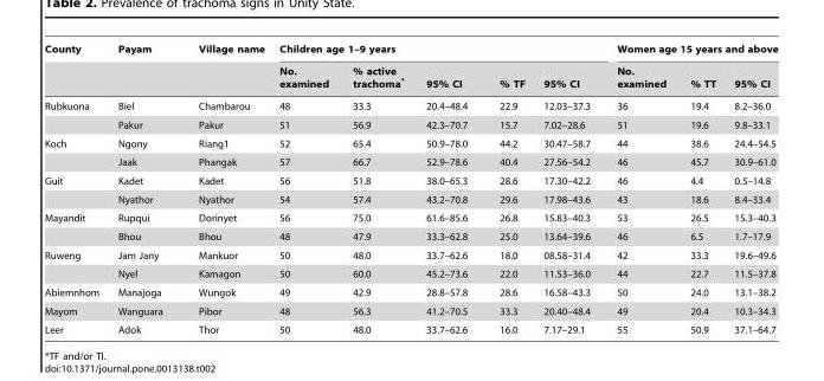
<table><thead><tr><td rowspan="2">County</td><td rowspan="2">Payam</td><td rowspan="2">Village name</td><td colspan="5">Children age 1–9 years</td><td colspan="3">Women age 15 years and above</td></tr><tr><td>No. examined</td><td>% active trachoma*</td><td>95% CI</td><td>% TF</td><td>95% CI</td><td>No. examined</td><td>% TT</td><td>95% CI</td></tr></thead><tbody><tr><td rowspan="2">Rubkuona</td><td>Biel</td><td>Chambarou</td><td>48</td><td>33.3</td><td>20.4–48.4</td><td>22.9</td><td>12.03–37.3</td><td>36</td><td>19.4</td><td>8.2–36.0</td></tr><tr><td>Pakur</td><td>Pakur</td><td>51</td><td>56.9</td><td>42.3–70.7</td><td>15.7</td><td>7.02–28.6</td><td>51</td><td>19.6</td><td>9.8–33.1</td></tr><tr><td rowspan="2">Koch</td><td>Ngony</td><td>Riang1</td><td>52</td><td>65.4</td><td>50.9–78.0</td><td>44.2</td><td>30.47–58.7</td><td>44</td><td>38.6</td><td>24.4–54.5</td></tr><tr><td>Jaak</td><td>Phangak</td><td>57</td><td>66.7</td><td>52.9–78.6</td><td>40.4</td><td>27.56–54.2</td><td>46</td><td>45.7</td><td>30.9–61.0</td></tr><tr><td rowspan="2">Guit</td><td>Kadet</td><td>Kadet</td><td>56</td><td>51.8</td><td>38.0–65.3</td><td>28.6</td><td>17.30–42.2</td><td>46</td><td>4.4</td><td>0.5–14.8</td></tr><tr><td>Nyathor</td><td>Nyathor</td><td>54</td><td>57.4</td><td>43.2–70.8</td><td>29.6</td><td>17.98–43.6</td><td>43</td><td>18.6</td><td>8.4–33.4</td></tr><tr><td rowspan="2">Mayandit</td><td>Rupqui</td><td>Dorinyet</td><td>56</td><td>75.0</td><td>61.6–85.6</td><td>26.8</td><td>15.83–40.3</td><td>53</td><td>26.5</td><td>15.3–40.3</td></tr><tr><td>Bhou</td><td>Bhou</td><td>48</td><td>47.9</td><td>33.3–62.8</td><td>25.0</td><td>13.64–39.6</td><td>46</td><td>6.5</td><td>1.7–17.9</td></tr><tr><td rowspan="2">Ruweng</td><td>Jam Jany</td><td>Mankuor</td><td>50</td><td>48.0</td><td>33.7–62.6</td><td>18.0</td><td>08.58–31.4</td><td>42</td><td>33.3</td><td>19.6–49.6</td></tr><tr><td>Nyel</td><td>Kamagon</td><td>50</td><td>60.0</td><td>45.2–73.6</td><td>22.0</td><td>11.53–36.0</td><td>44</td><td>22.7</td><td>11.5–37.8</td></tr><tr><td>Abiemnhom</td><td>Manajoga</td><td>Wungok</td><td>49</td><td>42.9</td><td>28.8–57.8</td><td>28.6</td><td>16.58–43.3</td><td>50</td><td>24.0</td><td>13.1–38.2</td></tr><tr><td>Mayom</td><td>Wanguara</td><td>Pibor</td><td>48</td><td>56.3</td><td>41.2–70.5</td><td>33.3</td><td>20.40–48.4</td><td>49</td><td>20.4</td><td>10.3–34.3</td></tr><tr><td>Leer</td><td>Adok</td><td>Thor</td><td>50</td><td>48.0</td><td>33.7–62.6</td><td>16.0</td><td>7.17–29.1</td><td>55</td><td>50.9</td><td>37.1–64.7</td></tr></tbody></table>